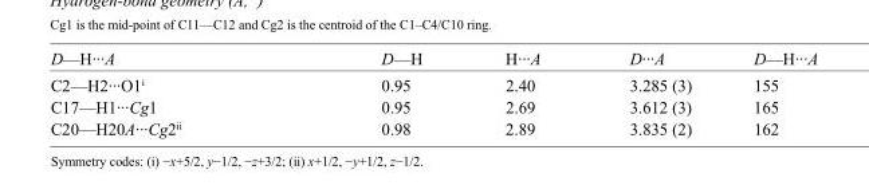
<table><tbody><tr><td>D—H···A</td><td>D—H</td><td>H···A</td><td>D···A</td><td>D—H···A</td></tr><tr><td>C2—H2···O1<sup>i</sup></td><td>0.95</td><td>2.40</td><td>3.285 (3)</td><td>155</td></tr><tr><td>C17—H1···Cg1</td><td>0.95</td><td>2.69</td><td>3.612 (3)</td><td>165</td></tr><tr><td>C20—H20A···Cg2<sup>ii</sup></td><td>0.98</td><td>2.89</td><td>3.835 (2)</td><td>162</td></tr></tbody></table>